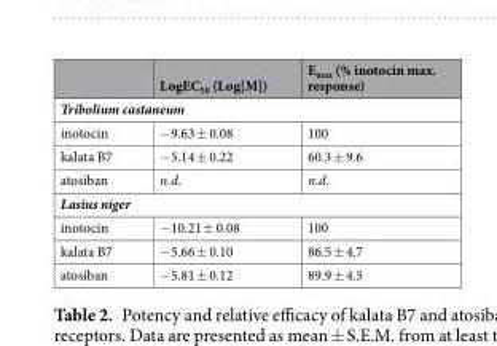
<table><thead><tr><td></td><td>LogEC<sub>50</sub> (Log[M])</td><td>E<sub>max</sub> (% inotocin max. response)</td></tr></thead><tbody><tr><td colspan="3">Tribolium castaneum</td></tr><tr><td>inotocin</td><td>−9.63 ± 0.08</td><td>100</td></tr><tr><td>kalata B7</td><td>−5.14 ± 0.22</td><td>60.3 ± 9.6</td></tr><tr><td>atosiban</td><td>n.d.</td><td>n.d.</td></tr><tr><td colspan="3">Lasius niger</td></tr><tr><td>inotocin</td><td>−10.21 ± 0.08</td><td>100</td></tr><tr><td>kalata B7</td><td>−5.66 ± 0.10</td><td>86.5 ± 4.7</td></tr><tr><td>atosiban</td><td>−5.81 ± 0.12</td><td>89.9 ± 4.5</td></tr></tbody></table>